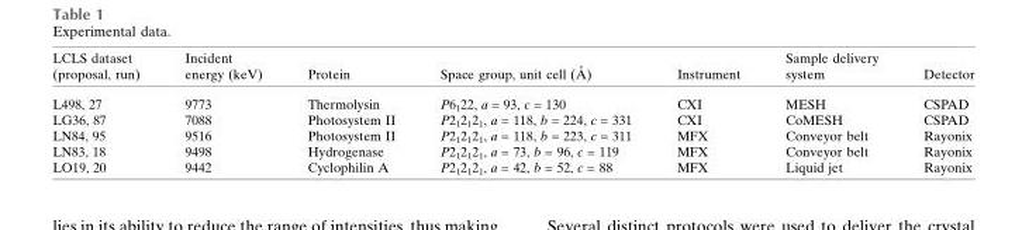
<table><thead><tr><td>LCLS dataset (proposal, run)</td><td>Incident energy (keV)</td><td>Protein</td><td>Space group, unit cell (A˚ )</td><td>Instrument</td><td>Sample delivery system</td><td>Detector</td></tr></thead><tbody><tr><td>L498, 27</td><td>9773</td><td>Thermolysin</td><td>P6<sub>1</sub>22, a = 93, c = 130</td><td>CXI</td><td>MESH</td><td>CSPAD</td></tr><tr><td>LG36, 87</td><td>7088</td><td>Photosystem II</td><td>P2<sub>1</sub>2<sub>1</sub>2<sub>1</sub>, a = 118, b = 224, c = 331</td><td>CXI</td><td>CoMESH</td><td>CSPAD</td></tr><tr><td>LN84, 95</td><td>9516</td><td>Photosystem II</td><td>P2<sub>1</sub>2<sub>1</sub>2<sub>1</sub>, a = 118, b = 223, c = 311</td><td>MFX</td><td>Conveyor belt</td><td>Rayonix</td></tr><tr><td>LN83, 18</td><td>9498</td><td>Hydrogenase</td><td>P2<sub>1</sub>2<sub>1</sub>2<sub>1</sub>, a = 73, b = 96, c = 119</td><td>MFX</td><td>Conveyor belt</td><td>Rayonix</td></tr><tr><td>LO19, 20</td><td>9442</td><td>Cyclophilin A</td><td>P2<sub>1</sub>2<sub>1</sub>2<sub>1</sub>, a = 42, b = 52, c = 88</td><td>MFX</td><td>Liquid jet</td><td>Rayonix</td></tr></tbody></table>